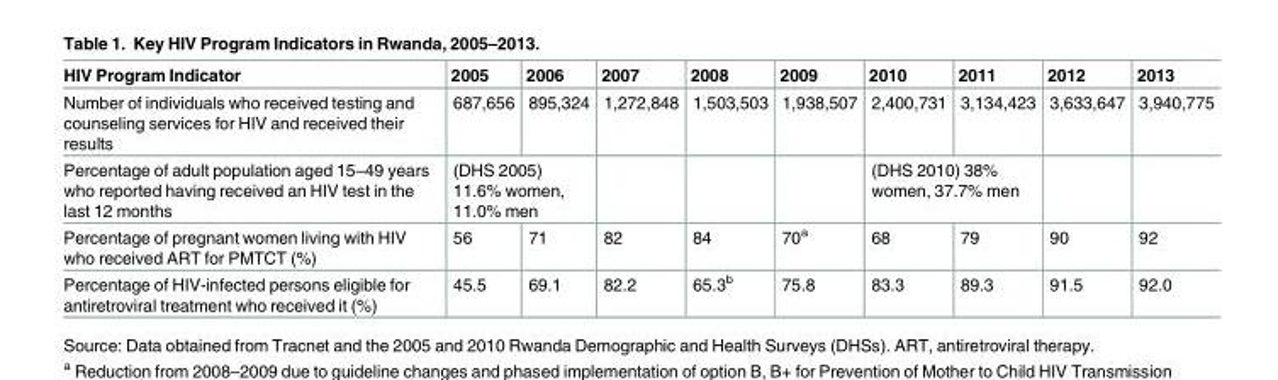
<table><thead><tr><td>HIV Program Indicator</td><td>2005</td><td>2006</td><td>2007</td><td>2008</td><td>2009</td><td>2010</td><td>2011</td><td>2012</td><td>2013</td></tr></thead><tbody><tr><td>Number of individuals who received testing and counseling services for HIV and received their results</td><td>687,656</td><td>895,324</td><td>1,272,848</td><td>1,503,503</td><td>1,938,507</td><td>2,400,731</td><td>3,134,423</td><td>3,633,647</td><td>3,940,775</td></tr><tr><td>Percentage of adult population aged 15–49 years who reported having received an HIV test in the last 12 months</td><td colspan="2">(DHS 2005) 11.6% women, 11.0% men</td><td></td><td></td><td></td><td colspan="2">(DHS 2010) 38% women, 37.7% men</td><td></td><td></td></tr><tr><td>Percentage of pregnant women living with HIV who received ART for PMTCT (%)</td><td>56</td><td>71</td><td>82</td><td>84</td><td>70<sup>a</sup></td><td>68</td><td>79</td><td>90</td><td>92</td></tr><tr><td>Percentage of HIV-infected persons eligible for antiretroviral treatment who received it (%)</td><td>45.5</td><td>69.1</td><td>82.2</td><td>65.3<sup>b</sup></td><td>75.8</td><td>83.3</td><td>89.3</td><td>91.5</td><td>92.0</td></tr></tbody></table>